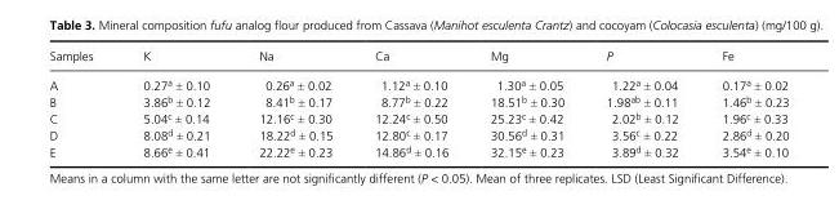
<table><thead><tr><td>Samples</td><td>K</td><td>Na</td><td>Ca</td><td>Mg</td><td>P</td><td>Fe</td></tr></thead><tbody><tr><td>A</td><td>0.27<sup>a</sup> ± 0.10</td><td>0.26<sup>a</sup> ± 0.02</td><td>1.12<sup>a</sup> ± 0.10</td><td>1.30<sup>a</sup> ± 0.05</td><td>1.22<sup>a</sup> ± 0.04</td><td>0.17<sup>a</sup> ± 0.02</td></tr><tr><td>B</td><td>3.86<sup>b</sup> ± 0.12</td><td>8.41<sup>b</sup> ± 0.17</td><td>8.77<sup>b</sup> ± 0.22</td><td>18.51<sup>b</sup> ± 0.30</td><td>1.98<sup>ab</sup> ± 0.11</td><td>1.46<sup>b</sup> ± 0.23</td></tr><tr><td>C</td><td>5.04<sup>c</sup> ± 0.14</td><td>12.16<sup>c</sup> ± 0.30</td><td>12.24<sup>c</sup> ± 0.50</td><td>25.23<sup>c</sup> ± 0.42</td><td>2.02<sup>b</sup> ± 0.12</td><td>1.96<sup>c</sup> ± 0.33</td></tr><tr><td>D</td><td>8.08<sup>d</sup> ± 0.21</td><td>18.22<sup>d</sup> ± 0.15</td><td>12.80<sup>c</sup> ± 0.17</td><td>30.56<sup>d</sup> ± 0.31</td><td>3.56<sup>c</sup> ± 0.22</td><td>2.86<sup>d</sup> ± 0.20</td></tr><tr><td>E</td><td>8.66<sup>e</sup> ± 0.41</td><td>22.22<sup>e</sup> ± 0.23</td><td>14.86<sup>d</sup> ± 0.16</td><td>32.15<sup>e</sup> ± 0.23</td><td>3.89<sup>d</sup> ± 0.32</td><td>3.54<sup>e</sup> ± 0.10</td></tr></tbody></table>